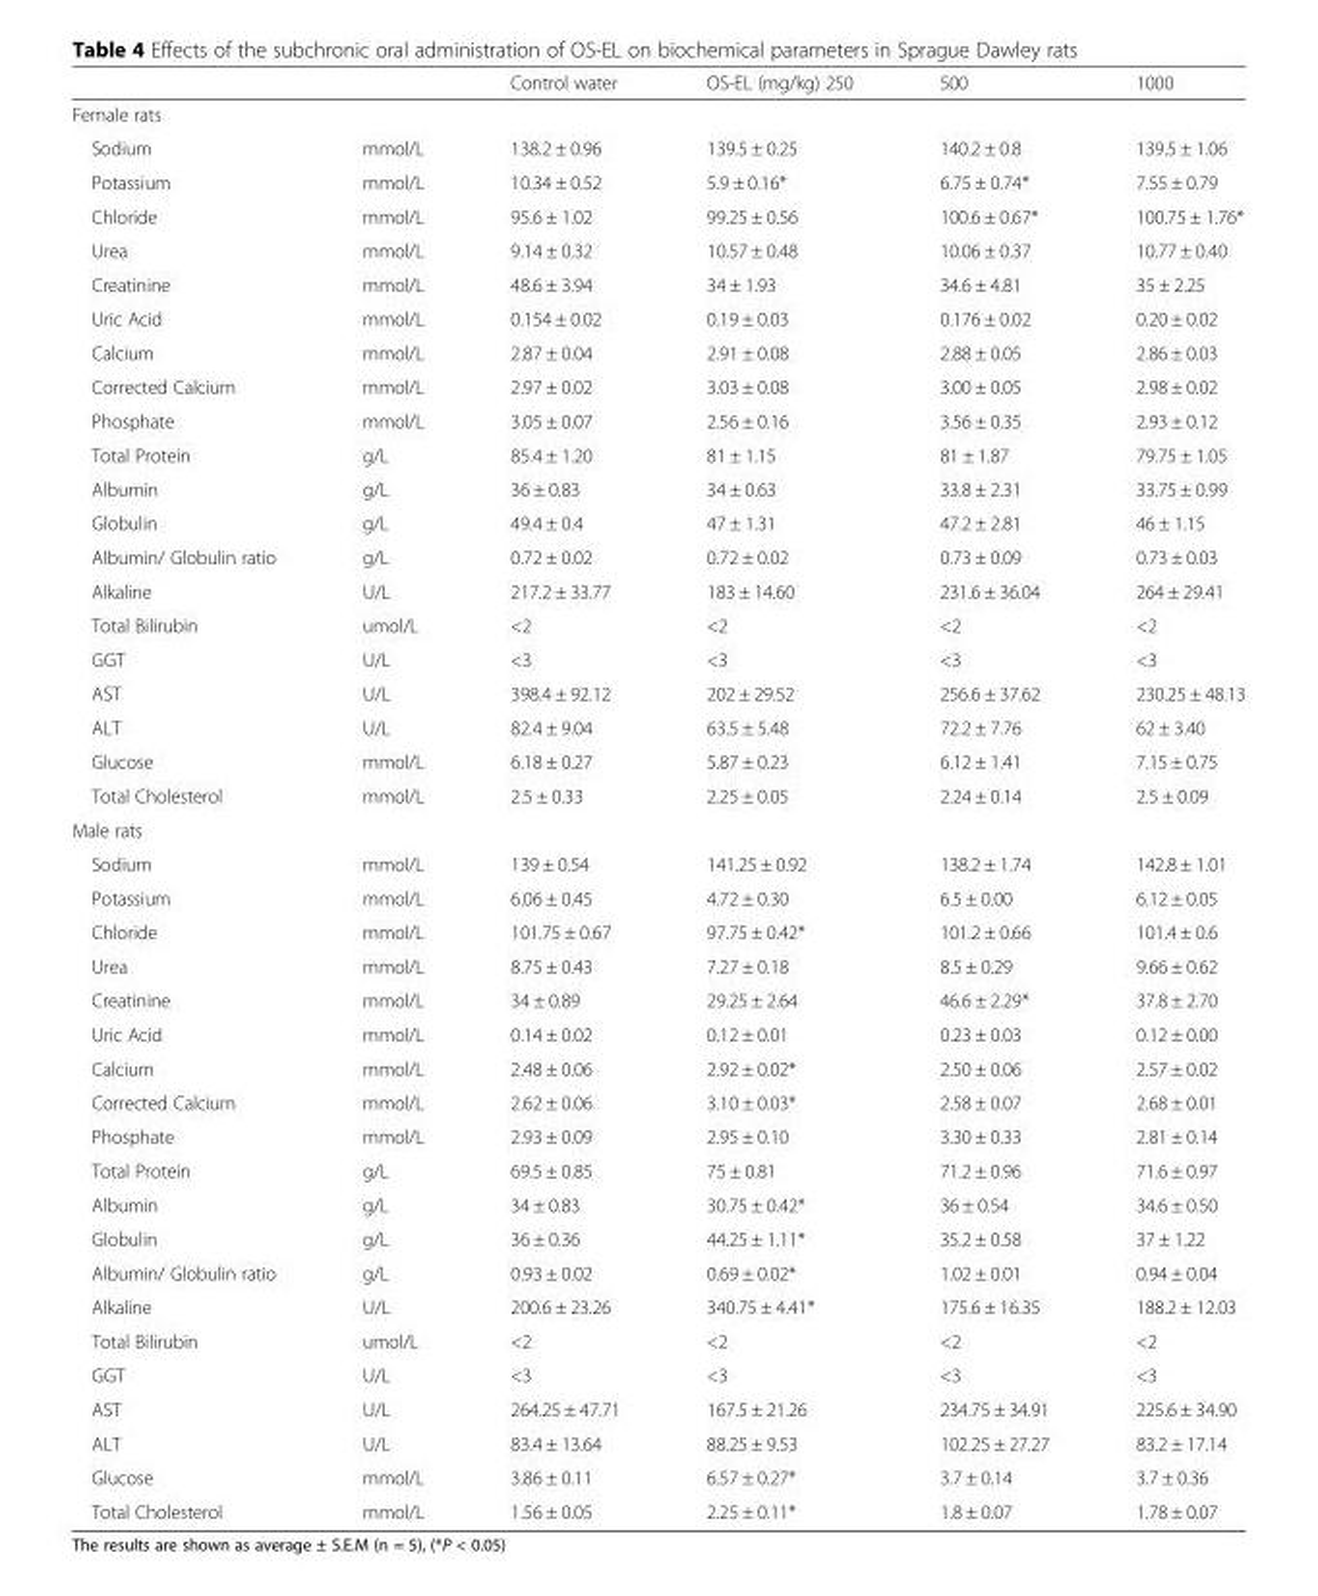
<table><thead><tr><td></td><td></td><td>Control water</td><td>OS-EL (mg/kg) 250</td><td>500</td><td>1000</td></tr></thead><tbody><tr><td colspan="6">Female rats</td></tr><tr><td>Sodium</td><td>mmol/L</td><td>138.2 ± 0.96</td><td>139.5 ± 0.25</td><td>140.2 ± 0.8</td><td>139.5 ± 1.06</td></tr><tr><td>Potassium</td><td>mmol/L</td><td>10.34 ± 0.52</td><td>5.9 ± 0.16*</td><td>6.75 ± 0.74*</td><td>7.55 ± 0.79</td></tr><tr><td>Chloride</td><td>mmol/L</td><td>95.6 ± 1.02</td><td>99.25 ± 0.56</td><td>100.6 ± 0.67*</td><td>100.75 ± 1.76*</td></tr><tr><td>Urea</td><td>mmol/L</td><td>9.14 ± 0.32</td><td>10.57 ± 0.48</td><td>10.06 ± 0.37</td><td>10.77 ± 0.40</td></tr><tr><td>Creatinine</td><td>mmol/L</td><td>48.6 ± 3.94</td><td>34 ± 1.93</td><td>34.6 ± 4.81</td><td>35 ± 2.25</td></tr><tr><td>Uric Acid</td><td>mmol/L</td><td>0.154 ± 0.02</td><td>0.19 ± 0.03</td><td>0.176 ± 0.02</td><td>0.20 ± 0.02</td></tr><tr><td>Calcium</td><td>mmol/L</td><td>2.87 ± 0.04</td><td>2.91 ± 0.08</td><td>2.88 ± 0.05</td><td>2.86 ± 0.03</td></tr><tr><td>Corrected Calcium</td><td>mmol/L</td><td>2.97 ± 0.02</td><td>3.03 ± 0.08</td><td>3.00 ± 0.05</td><td>2.98 ± 0.02</td></tr><tr><td>Phosphate</td><td>mmol/L</td><td>3.05 ± 0.07</td><td>2.56 ± 0.16</td><td>3.56 ± 0.35</td><td>2.93 ± 0.12</td></tr><tr><td>Total Protein</td><td>g/L</td><td>85.4 ± 1.20</td><td>81 ± 1.15</td><td>81 ± 1.87</td><td>79.75 ± 1.05</td></tr><tr><td>Albumin</td><td>g/L</td><td>36 ± 0.83</td><td>34 ± 0.63</td><td>33.8 ± 2.31</td><td>33.75 ± 0.99</td></tr><tr><td>Globulin</td><td>g/L</td><td>49.4 ± 0.4</td><td>47 ± 1.31</td><td>47.2 ± 2.81</td><td>46 ± 1.15</td></tr><tr><td>Albumin/ Globulin ratio</td><td>g/L</td><td>0.72 ± 0.02</td><td>0.72 ± 0.02</td><td>0.73 ± 0.09</td><td>0.73 ± 0.03</td></tr><tr><td>Alkaline</td><td>U/L</td><td>217.2 ± 33.77</td><td>183 ± 14.60</td><td>231.6 ± 36.04</td><td>264 ± 29.41</td></tr><tr><td>Total Bilirubin</td><td>umol/L</td><td>&lt;2</td><td>&lt;2</td><td>&lt;2</td><td>&lt;2</td></tr><tr><td>GGT</td><td>U/L</td><td>&lt;3</td><td>&lt;3</td><td>&lt;3</td><td>&lt;3</td></tr><tr><td>AST</td><td>U/L</td><td>398.4 ± 92.12</td><td>202 ± 29.52</td><td>256.6 ± 37.62</td><td>230.25 ± 48.13</td></tr><tr><td>ALT</td><td>U/L</td><td>82.4 ± 9.04</td><td>63.5 ± 5.48</td><td>72.2 ± 7.76</td><td>62 ± 3.40</td></tr><tr><td>Glucose</td><td>mmol/L</td><td>6.18 ± 0.27</td><td>5.87 ± 0.23</td><td>6.12 ± 1.41</td><td>7.15 ± 0.75</td></tr><tr><td>Total Cholesterol</td><td>mmol/L</td><td>2.5 ± 0.33</td><td>2.25 ± 0.05</td><td>2.24 ± 0.14</td><td>2.5 ± 0.09</td></tr><tr><td colspan="6">Male rats</td></tr><tr><td>Sodium</td><td>mmol/L</td><td>139 ± 0.54</td><td>141.25 ± 0.92</td><td>138.2 ± 1.74</td><td>142.8 ± 1.01</td></tr><tr><td>Potassium</td><td>mmol/L</td><td>6.06 ± 0.45</td><td>4.72 ± 0.30</td><td>6.5 ± 0.00</td><td>6.12 ± 0.05</td></tr><tr><td>Chloride</td><td>mmol/L</td><td>101.75 ± 0.67</td><td>97.75 ± 0.42*</td><td>101.2 ± 0.66</td><td>101.4 ± 0.6</td></tr><tr><td>Urea</td><td>mmol/L</td><td>8.75 ± 0.43</td><td>7.27 ± 0.18</td><td>8.5 ± 0.29</td><td>9.66 ± 0.62</td></tr><tr><td>Creatinine</td><td>mmol/L</td><td>34 ± 0.89</td><td>29.25 ± 2.64</td><td>46.6 ± 2.29*</td><td>37.8 ± 2.70</td></tr><tr><td>Uric Acid</td><td>mmol/L</td><td>0.14 ± 0.02</td><td>0.12 ± 0.01</td><td>0.23 ± 0.03</td><td>0.12 ± 0.00</td></tr><tr><td>Calcium</td><td>mmol/L</td><td>2.48 ± 0.06</td><td>2.92 ± 0.02*</td><td>2.50 ± 0.06</td><td>2.57 ± 0.02</td></tr><tr><td>Corrected Calcium</td><td>mmol/L</td><td>2.62 ± 0.06</td><td>3.10 ± 0.03*</td><td>2.58 ± 0.07</td><td>2.68 ± 0.01</td></tr><tr><td>Phosphate</td><td>mmol/L</td><td>2.93 ± 0.09</td><td>2.95 ± 0.10</td><td>3.30 ± 0.33</td><td>2.81 ± 0.14</td></tr><tr><td>Total Protein</td><td>g/L</td><td>69.5 ± 0.85</td><td>75 ± 0.81</td><td>71.2 ± 0.96</td><td>71.6 ± 0.97</td></tr><tr><td>Albumin</td><td>g/L</td><td>34 ± 0.83</td><td>30.75 ± 0.42*</td><td>36 ± 0.54</td><td>34.6 ± 0.50</td></tr><tr><td>Globulin</td><td>g/L</td><td>36 ± 0.36</td><td>44.25 ± 1.11*</td><td>35.2 ± 0.58</td><td>37 ± 1.22</td></tr><tr><td>Albumin/ Globulin ratio</td><td>g/L</td><td>0.93 ± 0.02</td><td>0.69 ± 0.02*</td><td>1.02 ± 0.01</td><td>0.94 ± 0.04</td></tr><tr><td>Alkaline</td><td>U/L</td><td>200.6 ± 23.26</td><td>340.75 ± 4.41*</td><td>175.6 ± 16.35</td><td>188.2 ± 12.03</td></tr><tr><td>Total Bilirubin</td><td>umol/L</td><td>&lt;2</td><td>&lt;2</td><td>&lt;2</td><td>&lt;2</td></tr><tr><td>GGT</td><td>U/L</td><td>&lt;3</td><td>&lt;3</td><td>&lt;3</td><td>&lt;3</td></tr><tr><td>AST</td><td>U/L</td><td>264.25 ± 47.71</td><td>167.5 ± 21.26</td><td>234.75 ± 34.91</td><td>225.6 ± 34.90</td></tr><tr><td>ALT</td><td>U/L</td><td>83.4 ± 13.64</td><td>88.25 ± 9.53</td><td>102.25 ± 27.27</td><td>83.2 ± 17.14</td></tr><tr><td>Glucose</td><td>mmol/L</td><td>3.86 ± 0.11</td><td>6.57 ± 0.27*</td><td>3.7 ± 0.14</td><td>3.7 ± 0.36</td></tr><tr><td>Total Cholesterol</td><td>mmol/L</td><td>1.56 ± 0.05</td><td>2.25 ± 0.11*</td><td>1.8 ± 0.07</td><td>1.78 ± 0.07</td></tr></tbody></table>